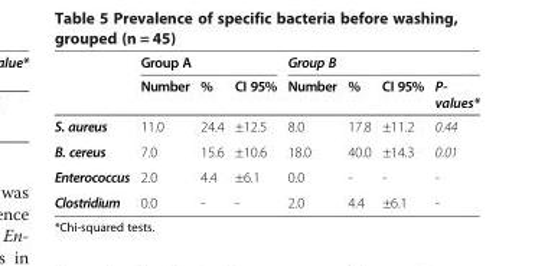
<table><thead><tr><td rowspan="2"></td><td colspan="3">Group A</td><td colspan="4">Group B</td></tr><tr><td>Number</td><td>%</td><td>CI 95%</td><td>Number</td><td>%</td><td>CI 95%</td><td>P- values*</td></tr></thead><tbody><tr><td>S. aureus</td><td>11.0</td><td>24.4</td><td>±12.5</td><td>8.0</td><td>17.8</td><td>±11.2</td><td>0.44</td></tr><tr><td>B. cereus</td><td>7.0</td><td>15.6</td><td>±10.6</td><td>18.0</td><td>40.0</td><td>±14.3</td><td>0.01</td></tr><tr><td>Enterococcus</td><td>2.0</td><td>4.4</td><td>±6.1</td><td>0.0</td><td>-</td><td>-</td><td>-</td></tr><tr><td>Clostridium</td><td>0.0</td><td>-</td><td>-</td><td>2.0</td><td>4.4</td><td>±6.1</td><td>-</td></tr></tbody></table>